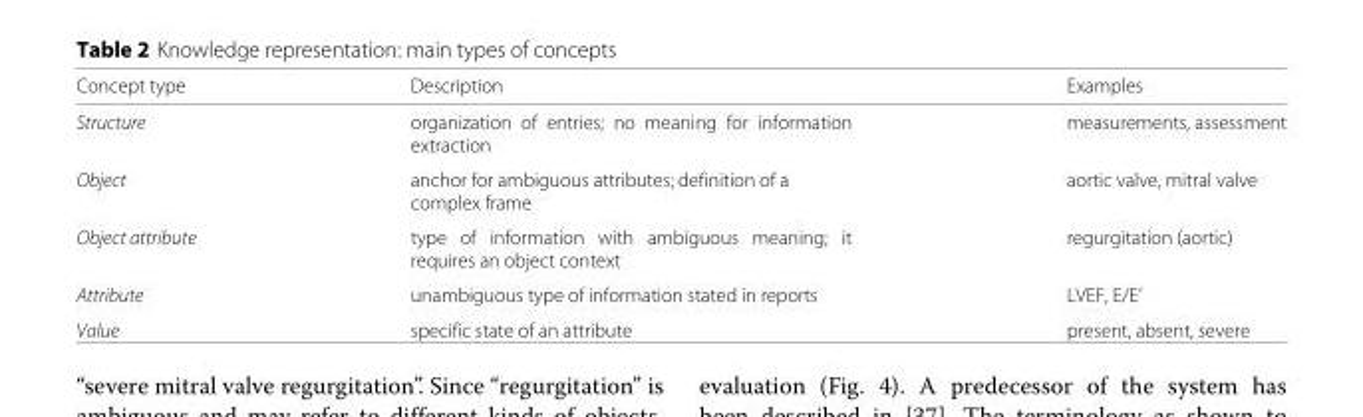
<table><thead><tr><td>Concept type</td><td>Description</td><td>Examples</td></tr></thead><tbody><tr><td>Structure</td><td>organization of entries; no meaning for information extraction</td><td>measurements, assessment</td></tr><tr><td>Object</td><td>anchor for ambiguous attributes; definition of a complex frame</td><td>aortic valve, mitral valve</td></tr><tr><td>Object attribute</td><td>type of information with ambiguous meaning; it requires an object context</td><td>regurgitation (aortic)</td></tr><tr><td>Attribute</td><td>unambiguous type of information stated in reports</td><td>LVEF, E/E’</td></tr><tr><td>Value</td><td>specific state of an attribute</td><td>present, absent, severe</td></tr></tbody></table>